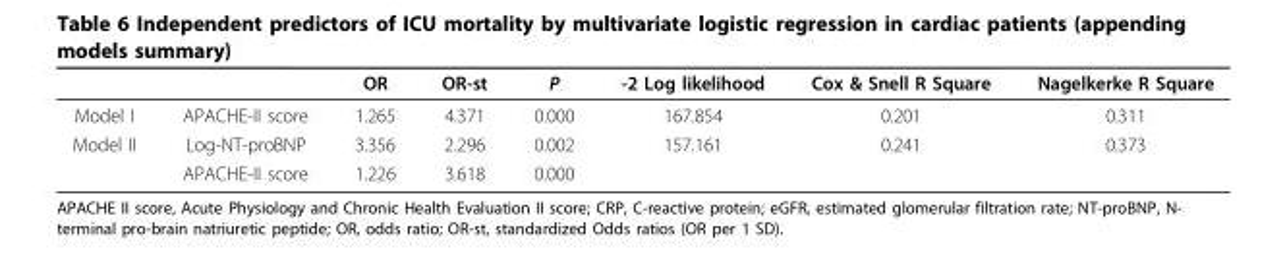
<table><thead><tr><td></td><td></td><td>OR</td><td>OR-st</td><td>P</td><td>-2 Log likelihood</td><td>Cox &amp; Snell R Square</td><td>Nagelkerke R Square</td></tr></thead><tbody><tr><td>Model I</td><td>APACHE-II score</td><td>1.265</td><td>4.371</td><td>0.000</td><td>167.854</td><td>0.201</td><td>0.311</td></tr><tr><td rowspan="2">Model II</td><td>Log-NT-proBNP</td><td>3.356</td><td>2.296</td><td>0.002</td><td>157.161</td><td>0.241</td><td>0.373</td></tr><tr><td>APACHE-II score</td><td>1.226</td><td>3.618</td><td>0.000</td><td></td><td></td><td></td></tr></tbody></table>